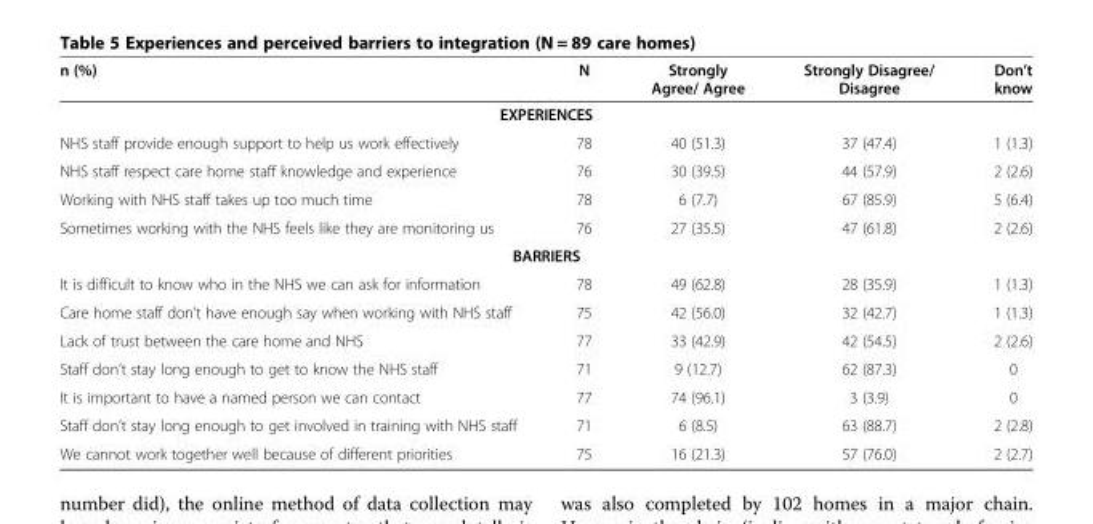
<table><thead><tr><td>n (%)</td><td>N</td><td>Strongly Agree/ Agree</td><td>Strongly Disagree/ Disagree</td><td>Don’t know</td></tr></thead><tbody><tr><td colspan="5">EXPERIENCES</td></tr><tr><td>NHS staff provide enough support to help us work effectively</td><td>78</td><td>40 (51.3)</td><td>37 (47.4)</td><td>1 (1.3)</td></tr><tr><td>NHS staff respect care home staff knowledge and experience</td><td>76</td><td>30 (39.5)</td><td>44 (57.9)</td><td>2 (2.6)</td></tr><tr><td>Working with NHS staff takes up too much time</td><td>78</td><td>6 (7.7)</td><td>67 (85.9)</td><td>5 (6.4)</td></tr><tr><td>Sometimes working with the NHS feels like they are monitoring us</td><td>76</td><td>27 (35.5)</td><td>47 (61.8)</td><td>2 (2.6)</td></tr><tr><td colspan="5">BARRIERS</td></tr><tr><td>It is difficult to know who in the NHS we can ask for information</td><td>78</td><td>49 (62.8)</td><td>28 (35.9)</td><td>1 (1.3)</td></tr><tr><td>Care home staff don’t have enough say when working with NHS staff</td><td>75</td><td>42 (56.0)</td><td>32 (42.7)</td><td>1 (1.3)</td></tr><tr><td>Lack of trust between the care home and NHS</td><td>77</td><td>33 (42.9)</td><td>42 (54.5)</td><td>2 (2.6)</td></tr><tr><td>Staff don’t stay long enough to get to know the NHS staff</td><td>71</td><td>9 (12.7)</td><td>62 (87.3)</td><td>0</td></tr><tr><td>It is important to have a named person we can contact</td><td>77</td><td>74 (96.1)</td><td>3 (3.9)</td><td>0</td></tr><tr><td>Staff don’t stay long enough to get involved in training with NHS staff</td><td>71</td><td>6 (8.5)</td><td>63 (88.7)</td><td>2 (2.8)</td></tr><tr><td>We cannot work together well because of different priorities</td><td>75</td><td>16 (21.3)</td><td>57 (76.0)</td><td>2 (2.7)</td></tr></tbody></table>